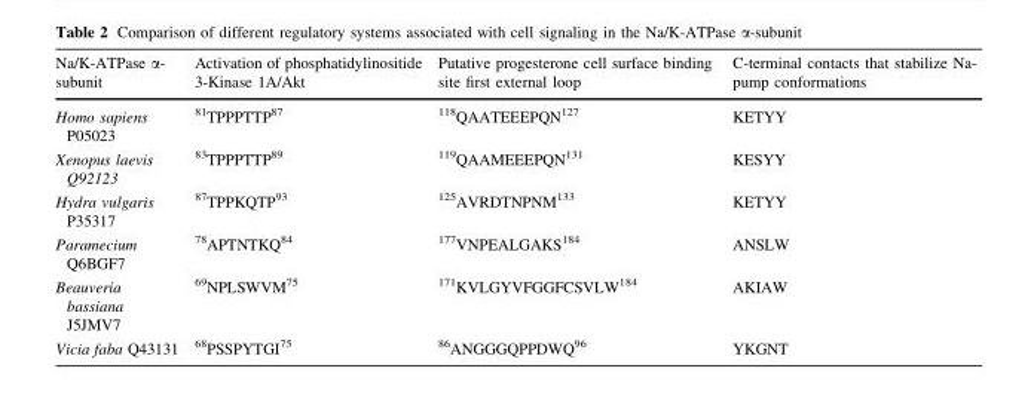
<table><thead><tr><td>Na/K-ATPase α- subunit</td><td>Activation of phosphatidylinositide 3-Kinase 1A/Akt</td><td>Putative progesterone cell surface binding site first external loop</td><td>C-terminal contacts that stabilize Na- pump conformations</td></tr></thead><tbody><tr><td>Homo sapiens P05023</td><td><sup>81</sup>TPPPTTP<sup>87</sup></td><td><sup>118</sup>QAATEEEPQN<sup>127</sup></td><td>KETYY</td></tr><tr><td>Xenopus laevis Q92123</td><td><sup>83</sup>TPPPTTP<sup>89</sup></td><td><sup>119</sup>QAAMEEEPQN<sup>131</sup></td><td>KESYY</td></tr><tr><td>Hydra vulgaris P35317</td><td><sup>87</sup>TPPKQTP<sup>93</sup></td><td><sup>125</sup>AVRDTNPNM<sup>133</sup></td><td>KETYY</td></tr><tr><td>Paramecium Q6BGF7</td><td><sup>78</sup>APTNTKQ<sup>84</sup></td><td><sup>177</sup>VNPEALGAKS<sup>184</sup></td><td>ANSLW</td></tr><tr><td>Beauveria bassiana J5JMV7</td><td><sup>69</sup>NPLSWVM<sup>75</sup></td><td><sup>171</sup>KVLGYVFGGFCSVLW<sup>184</sup></td><td>AKIAW</td></tr><tr><td>Vicia faba Q43131</td><td><sup>68</sup>PSSPYTGI<sup>75</sup></td><td><sup>86</sup>ANGGGQPPDWQ<sup>96</sup></td><td>YKGNT</td></tr></tbody></table>